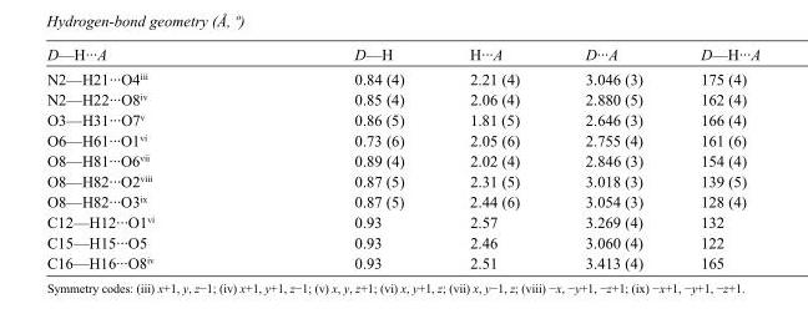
<table><tbody><tr><td>D—H···A</td><td>D—H</td><td>H···A</td><td>D···A</td><td>D—H···A</td></tr><tr><td>N2—H21···O4<sup>iii</sup></td><td>0.84 (4)</td><td>2.21 (4)</td><td>3.046 (3)</td><td>175 (4)</td></tr><tr><td>N2—H22···O8<sup>iv</sup></td><td>0.85 (4)</td><td>2.06 (4)</td><td>2.880 (5)</td><td>162 (4)</td></tr><tr><td>O3—H31···O7<sup>v</sup></td><td>0.86 (5)</td><td>1.81 (5)</td><td>2.646 (3)</td><td>166 (4)</td></tr><tr><td>O6—H61···O1<sup>vi</sup></td><td>0.73 (6)</td><td>2.05 (6)</td><td>2.755 (4)</td><td>161 (6)</td></tr><tr><td>O8—H81···O6<sup>vii</sup></td><td>0.89 (4)</td><td>2.02 (4)</td><td>2.846 (3)</td><td>154 (4)</td></tr><tr><td>O8—H82···O2<sup>viii</sup></td><td>0.87 (5)</td><td>2.31 (5)</td><td>3.018 (3)</td><td>139 (5)</td></tr><tr><td>O8—H82···O3<sup>ix</sup></td><td>0.87 (5)</td><td>2.44 (6)</td><td>3.054 (3)</td><td>128 (4)</td></tr><tr><td>C12—H12···O1<sup>vi</sup></td><td>0.93</td><td>2.57</td><td>3.269 (4)</td><td>132</td></tr><tr><td>C15—H15···O5</td><td>0.93</td><td>2.46</td><td>3.060 (4)</td><td>122</td></tr><tr><td>C16—H16···O8<sup>iv</sup></td><td>0.93</td><td>2.51</td><td>3.413 (4)</td><td>165</td></tr></tbody></table>